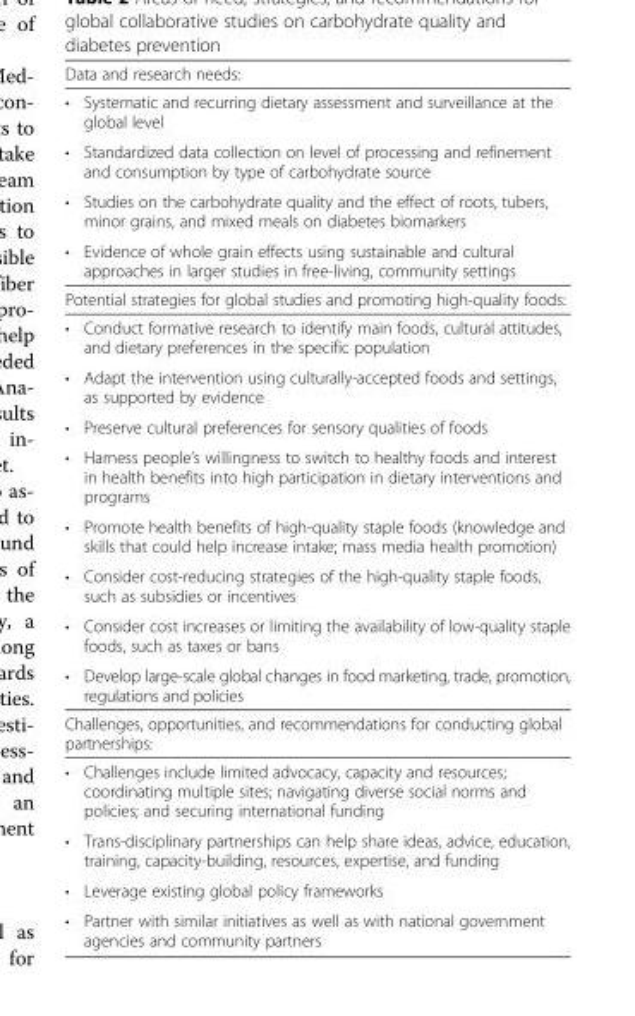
<table><thead><tr><td colspan="2">Data and research needs:</td></tr><tr><td>•</td><td>Systematic and recurring dietary assessment and surveillance at the global level</td></tr></thead><tbody><tr><td>•</td><td>Standardized data collection on level of processing and refinement and consumption by type of carbohydrate source</td></tr><tr><td>•</td><td>Studies on the carbohydrate quality and the effect of roots, tubers, minor grains, and mixed meals on diabetes biomarkers</td></tr><tr><td>•</td><td>Evidence of whole grain effects using sustainable and cultural approaches in larger studies in free-living, community settings</td></tr><tr><td colspan="2">Potential strategies for global studies and promoting high-quality foods:</td></tr><tr><td>•</td><td>Conduct formative research to identify main foods, cultural attitudes, and dietary preferences in the specific population</td></tr><tr><td>•</td><td>Adapt the intervention using culturally-accepted foods and settings, as supported by evidence</td></tr><tr><td>•</td><td>Preserve cultural preferences for sensory qualities of foods</td></tr><tr><td>•</td><td>Harness people’s willingness to switch to healthy foods and interest in health benefits into high participation in dietary interventions and programs</td></tr><tr><td>•</td><td>Promote health benefits of high-quality staple foods (knowledge and skills that could help increase intake; mass media health promotion)</td></tr><tr><td>•</td><td>Consider cost-reducing strategies of the high-quality staple foods, such as subsidies or incentives</td></tr><tr><td>•</td><td>Consider cost increases or limiting the availability of low-quality staple foods, such as taxes or bans</td></tr><tr><td>•</td><td>Develop large-scale global changes in food marketing, trade, promotion, regulations and policies</td></tr><tr><td colspan="2">Challenges, opportunities, and recommendations for conducting global partnerships:</td></tr><tr><td>•</td><td>Challenges include limited advocacy, capacity and resources; coordinating multiple sites; navigating diverse social norms and policies; and securing international funding</td></tr><tr><td>•</td><td>Trans-disciplinary partnerships can help share ideas, advice, education, training, capacity-building, resources, expertise, and funding</td></tr><tr><td>•</td><td>Leverage existing global policy frameworks</td></tr><tr><td>•</td><td>Partner with similar initiatives as well as with national government agencies and community partners</td></tr></tbody></table>